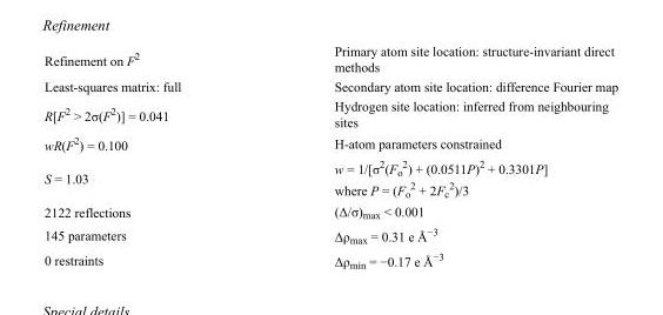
<table><tbody><tr><td>Refinement on F<sup>2</sup></td><td>Primary atom site location: structure-invariant direct methods</td></tr><tr><td>Least-squares matrix: full</td><td>Secondary atom site location: difference Fourier map</td></tr><tr><td>R[F<sup>2</sup> &gt; 2σ(F<sup>2</sup>)] = 0.041</td><td>Hydrogen site location: inferred from neighbouring sites</td></tr><tr><td>wR(F<sup>2</sup>) = 0.100</td><td>H-atom parameters constrained</td></tr><tr><td>S = 1.03</td><td>w = 1/[σ<sup>2</sup>(F<sub>o</sub> <sup>2</sup>) + (0.0511P)<sup>2</sup> + 0.3301P] where P = (F<sub>o</sub> <sup>2</sup> + 2F<sub>c</sub> <sup>2</sup>)/3</td></tr><tr><td>2122 reflections</td><td>(Δ/σ)<sub>max</sub> &lt; 0.001</td></tr><tr><td>145 parameters</td><td>Δρ<sub>max</sub> = 0.31 e Å<sup>−3</sup></td></tr><tr><td>0 restraints</td><td>Δρ<sub>min</sub> = −0.17 e Å<sup>−3</sup></td></tr></tbody></table>